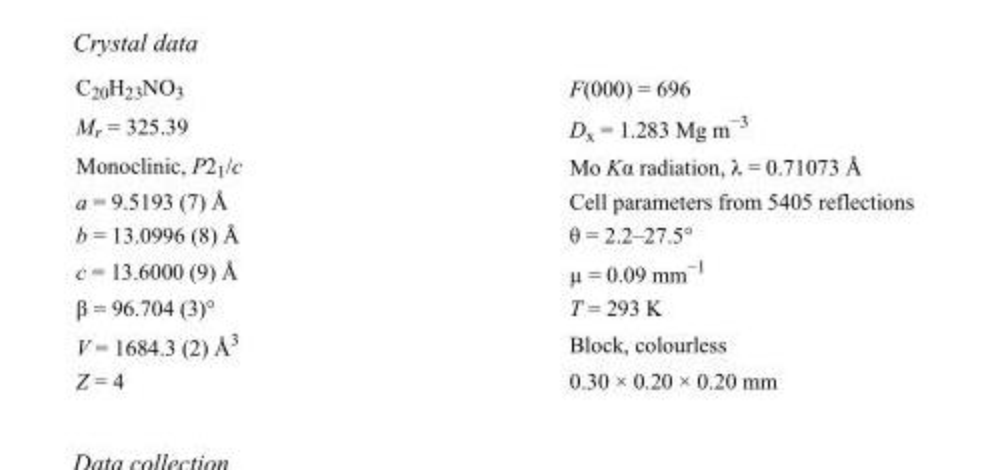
<table><tbody><tr><td>C<sub>20</sub>H<sub>23</sub>NO<sub>3</sub></td><td>F(000) = 696</td></tr><tr><td>M<sub>r</sub> = 325.39</td><td>D<sub>x</sub> = 1.283 Mg m<sup>−3</sup></td></tr><tr><td>Monoclinic, P2<sub>1</sub>/c</td><td>Mo Kα radiation, λ = 0.71073 Å</td></tr><tr><td>a = 9.5193 (7) Å</td><td>Cell parameters from 5405 reflections</td></tr><tr><td>b = 13.0996 (8) Å</td><td>θ = 2.2–27.5°</td></tr><tr><td>c = 13.6000 (9) Å</td><td>µ = 0.09 mm<sup>−1</sup></td></tr><tr><td>β = 96.704 (3)°</td><td>T = 293 K</td></tr><tr><td>V = 1684.3 (2) Å<sup>3</sup></td><td>Block, colourless</td></tr><tr><td>Z = 4</td><td>0.30 × 0.20 × 0.20 mm</td></tr></tbody></table>